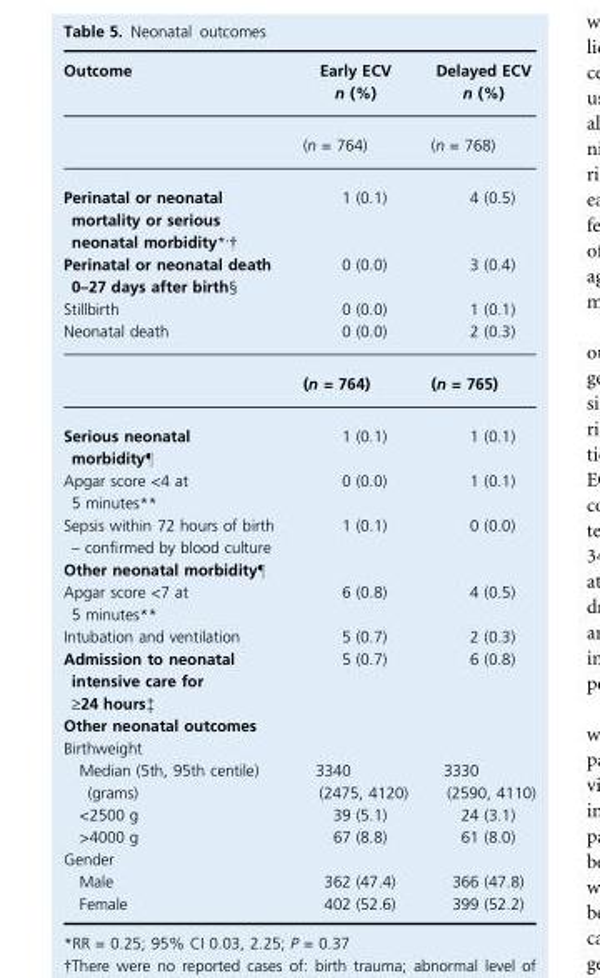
<table><thead><tr><td>Outcome</td><td>Early ECV n (%)</td><td>Delayed ECV n (%)</td></tr></thead><tbody><tr><td></td><td>(n = 764)</td><td>(n = 768)</td></tr><tr><td>Perinatal or neonatal mortality or serious neonatal morbidity*,†</td><td>1 (0.1)</td><td>4 (0.5)</td></tr><tr><td>Perinatal or neonatal death 0–27 days after birth§</td><td>0 (0.0)</td><td>3 (0.4)</td></tr><tr><td>Stillbirth</td><td>0 (0.0)</td><td>1 (0.1)</td></tr><tr><td rowspan="2">Neonatal death</td><td>0 (0.0)</td><td>2 (0.3)</td></tr><tr><td>(n = 764)</td><td>(n = 765)</td></tr><tr><td>Serious neonatal morbidity–</td><td>1 (0.1)</td><td>1 (0.1)</td></tr><tr><td>Apgar score &lt;4 at 5 minutes**</td><td>0 (0.0)</td><td>1 (0.1)</td></tr><tr><td>Sepsis within 72 hours of birth – confirmed by blood culture</td><td>1 (0.1)</td><td>0 (0.0)</td></tr><tr><td colspan="3">Other neonatal morbidity–</td></tr><tr><td>Apgar score &lt;7 at 5 minutes**</td><td>6 (0.8)</td><td>4 (0.5)</td></tr><tr><td>Intubation and ventilation</td><td>5 (0.7)</td><td>2 (0.3)</td></tr><tr><td>Admission to neonatal intensive care for ‡24 hours�</td><td>5 (0.7)</td><td>6 (0.8)</td></tr><tr><td colspan="3">Other neonatal outcomes</td></tr><tr><td colspan="3">Birthweight</td></tr><tr><td>Median (5th, 95th centile) (grams)</td><td>3340 (2475, 4120)</td><td>3330 (2590, 4110)</td></tr><tr><td>&lt;2500 g</td><td>39 (5.1)</td><td>24 (3.1)</td></tr><tr><td>&gt;4000 g</td><td>67 (8.8)</td><td>61 (8.0)</td></tr><tr><td colspan="3">Gender</td></tr><tr><td>Male</td><td>362 (47.4)</td><td>366 (47.8)</td></tr><tr><td>Female</td><td>402 (52.6)</td><td>399 (52.2)</td></tr></tbody></table>